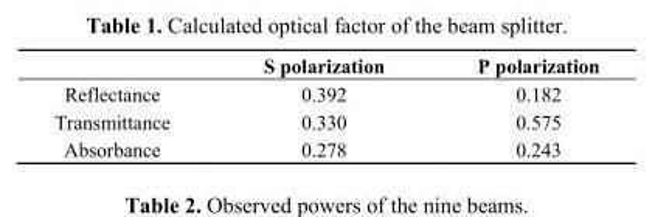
<table><thead><tr><td></td><td>S polarization</td><td>P polarization</td></tr></thead><tbody><tr><td>Reflectance</td><td>0.392</td><td>0.182</td></tr><tr><td>Transmittance</td><td>0.330</td><td>0.575</td></tr><tr><td>Absorbance</td><td>0.278</td><td>0.243</td></tr></tbody></table>